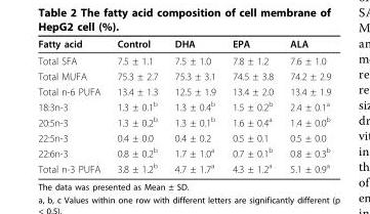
<table><thead><tr><td>Fatty acid</td><td>Control</td><td>DHA</td><td>EPA</td><td>ALA</td></tr></thead><tbody><tr><td>Total SFA</td><td>7.5 ± 1.1</td><td>7.5 ± 1.0</td><td>7.8 ± 1.2</td><td>7.6 ± 1.0</td></tr><tr><td>Total MUFA</td><td>75.3 ± 2.7</td><td>75.3 ± 3.1</td><td>74.5 ± 3.8</td><td>74.2 ± 2.9</td></tr><tr><td>Total n-6 PUFA</td><td>13.4 ± 1.3</td><td>12.5 ± 1.9</td><td>13.4 ± 2.0</td><td>13.4 ± 1.9</td></tr><tr><td>18:3n-3</td><td>1.3 ± 0.1<sup>b</sup></td><td>1.3 ± 0.4<sup>b</sup></td><td>1.5 ± 0.2<sup>b</sup></td><td>2.4 ± 0.1<sup>a</sup></td></tr><tr><td>20:5n-3</td><td>1.3 ± 0.2<sup>b</sup></td><td>1.3 ± 0.1<sup>b</sup></td><td>1.6 ± 0.4<sup>a</sup></td><td>1.4 ± 0.0<sup>b</sup></td></tr><tr><td>22:5n-3</td><td>0.4 ± 0.0</td><td>0.4 ± 0.2</td><td>0.5 ± 0.1</td><td>0.5 ± 0.0</td></tr><tr><td>22:6n-3</td><td>0.8 ± 0.2<sup>b</sup></td><td>1.7 ± 1.0<sup>a</sup></td><td>0.7 ± 0.1<sup>b</sup></td><td>0.8 ± 0.3<sup>b</sup></td></tr><tr><td>Total n-3 PUFA</td><td>3.8 ± 1.2<sup>b</sup></td><td>4.7 ± 1.7<sup>a</sup></td><td>4.3 ± 1.2<sup>a</sup></td><td>5.1 ± 0.9<sup>a</sup></td></tr></tbody></table>